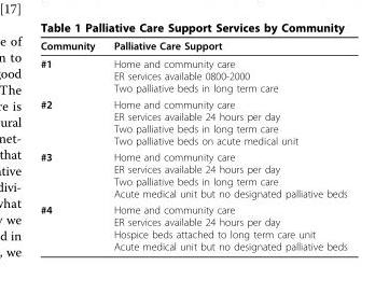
<table><thead><tr><td>Community</td><td>Palliative Care Support</td></tr></thead><tbody><tr><td>#1</td><td>Home and community care ER services available 0800-2000 Two palliative beds in long term care</td></tr><tr><td>#2</td><td>Home and community care ER services available 24 hours per day Two palliative beds in long term care Two palliative beds on acute medical unit</td></tr><tr><td>#3</td><td>Home and community care ER services available 24 hours per day Two palliative beds in long term care Acute medical unit but no designated palliative beds</td></tr><tr><td>#4</td><td>Home and community care ER services available 24 hours per day Hospice beds attached to long term care unit Acute medical unit but no designated palliative beds</td></tr></tbody></table>